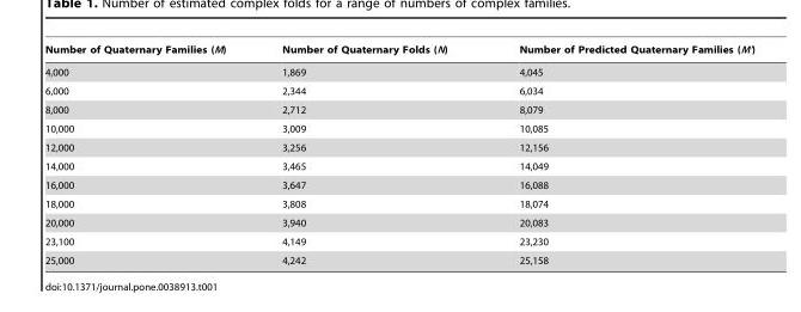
<table><thead><tr><td>Number of Quaternary Families (M)</td><td>Number of Quaternary Folds (N)</td><td>Number of Predicted Quaternary Families (M’)</td></tr></thead><tbody><tr><td>4,000</td><td>1,869</td><td>4,045</td></tr><tr><td>6,000</td><td>2,344</td><td>6,034</td></tr><tr><td>8,000</td><td>2,712</td><td>8,079</td></tr><tr><td>10,000</td><td>3,009</td><td>10,085</td></tr><tr><td>12,000</td><td>3,256</td><td>12,156</td></tr><tr><td>14,000</td><td>3,465</td><td>14,049</td></tr><tr><td>16,000</td><td>3,647</td><td>16,088</td></tr><tr><td>18,000</td><td>3,808</td><td>18,074</td></tr><tr><td>20,000</td><td>3,940</td><td>20,083</td></tr><tr><td>23,100</td><td>4,149</td><td>23,230</td></tr><tr><td>25,000</td><td>4,242</td><td>25,158</td></tr></tbody></table>